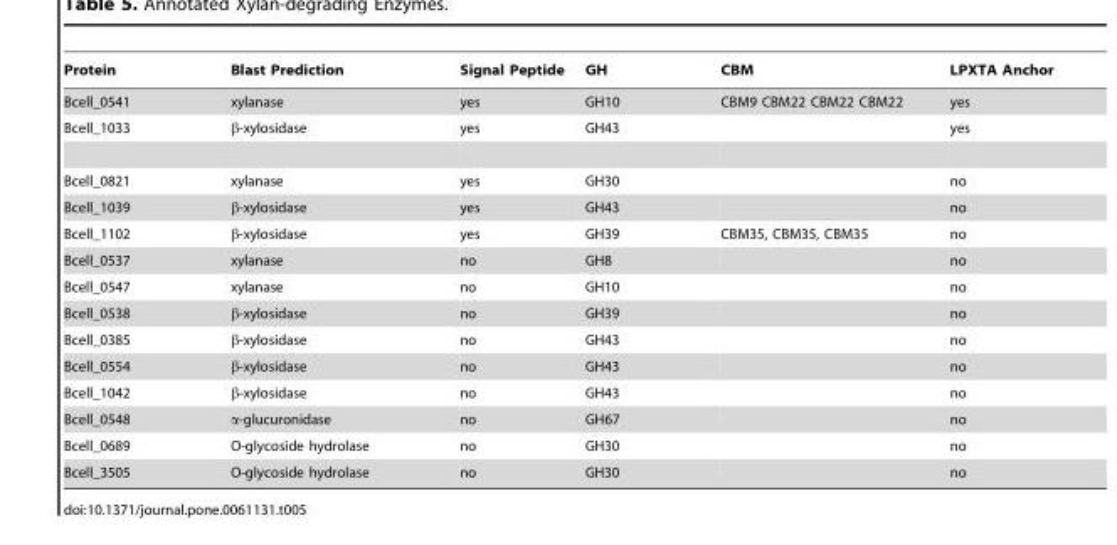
<table><thead><tr><td>Protein</td><td>Blast Prediction</td><td>Signal Peptide</td><td>GH</td><td>CBM</td><td>LPXTA Anchor</td></tr></thead><tbody><tr><td>Bcell_0541</td><td>xylanase</td><td>yes</td><td>GH10</td><td>CBM9 CBM22 CBM22 CBM22</td><td>yes</td></tr><tr><td>Bcell_1033</td><td>β-xylosidase</td><td>yes</td><td>GH43</td><td></td><td>yes</td></tr><tr><td>Bcell_0821</td><td>xylanase</td><td>yes</td><td>GH30</td><td></td><td>no</td></tr><tr><td>Bcell_1039</td><td>β-xylosidase</td><td>yes</td><td>GH43</td><td></td><td>no</td></tr><tr><td>Bcell_1102</td><td>β-xylosidase</td><td>yes</td><td>GH39</td><td>CBM35, CBM35, CBM35</td><td>no</td></tr><tr><td>Bcell_0537</td><td>xylanase</td><td>no</td><td>GH8</td><td></td><td>no</td></tr><tr><td>Bcell_0547</td><td>xylanase</td><td>no</td><td>GH10</td><td></td><td>no</td></tr><tr><td>Bcell_0538</td><td>β-xylosidase</td><td>no</td><td>GH39</td><td></td><td>no</td></tr><tr><td>Bcell_0385</td><td>β-xylosidase</td><td>no</td><td>GH43</td><td></td><td>no</td></tr><tr><td>Bcell_0554</td><td>β-xylosidase</td><td>no</td><td>GH43</td><td></td><td>no</td></tr><tr><td>Bcell_1042</td><td>β-xylosidase</td><td>no</td><td>GH43</td><td></td><td>no</td></tr><tr><td>Bcell_0548</td><td>α-glucuronidase</td><td>no</td><td>GH67</td><td></td><td>no</td></tr><tr><td>Bcell_0689</td><td>O-glycoside hydrolase</td><td>no</td><td>GH30</td><td></td><td>no</td></tr><tr><td>Bcell_3505</td><td>O-glycoside hydrolase</td><td>no</td><td>GH30</td><td></td><td>no</td></tr></tbody></table>